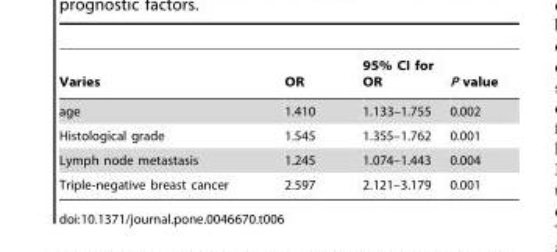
<table><thead><tr><td>Varies</td><td>OR</td><td>95% CI for OR</td><td>P value</td></tr></thead><tbody><tr><td>age</td><td>1.410</td><td>1.133–1.755</td><td>0.002</td></tr><tr><td>Histological grade</td><td>1.545</td><td>1.355–1.762</td><td>0.001</td></tr><tr><td>Lymph node metastasis</td><td>1.245</td><td>1.074–1.443</td><td>0.004</td></tr><tr><td>Triple-negative breast cancer</td><td>2.597</td><td>2.121–3.179</td><td>0.001</td></tr></tbody></table>